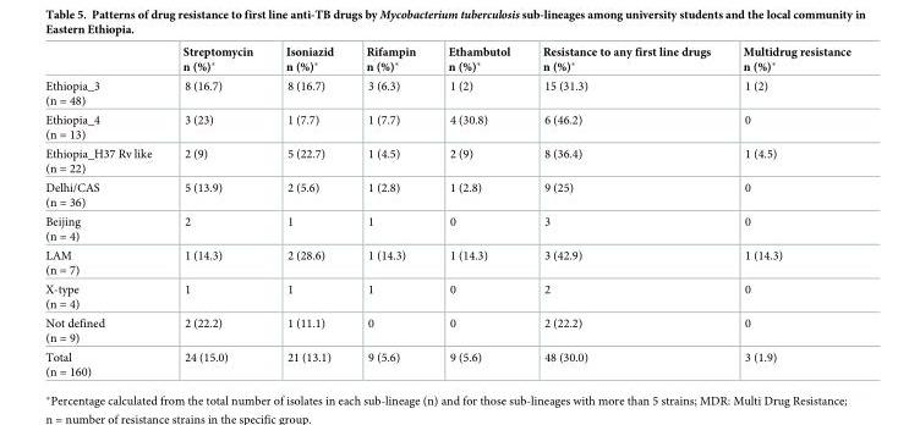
<table><thead><tr><td></td><td>Streptomycin n (%)*</td><td>Isoniazid n (%)*</td><td>Rifampin n (%)*</td><td>Ethambutol n (%)*</td><td>Resistance to any first line drugs n (%)*</td><td>Multidrug resistance n (%)*</td></tr></thead><tbody><tr><td>Ethiopia_3 (n = 48)</td><td>8 (16.7)</td><td>8 (16.7)</td><td>3 (6.3)</td><td>1 (2)</td><td>15 (31.3)</td><td>1 (2)</td></tr><tr><td>Ethiopia_4 (n = 13)</td><td>3 (23)</td><td>1 (7.7)</td><td>1 (7.7)</td><td>4 (30.8)</td><td>6 (46.2)</td><td>0</td></tr><tr><td>Ethiopia_H37 Rv like (n = 22)</td><td>2 (9)</td><td>5 (22.7)</td><td>1 (4.5)</td><td>2 (9)</td><td>8 (36.4)</td><td>1 (4.5)</td></tr><tr><td>Delhi/CAS (n = 36)</td><td>5 (13.9)</td><td>2 (5.6)</td><td>1 (2.8)</td><td>1 (2.8)</td><td>9 (25)</td><td>0</td></tr><tr><td>Beijing (n = 4)</td><td>2</td><td>1</td><td>1</td><td>0</td><td>3</td><td>0</td></tr><tr><td>LAM (n = 7)</td><td>1 (14.3)</td><td>2 (28.6)</td><td>1 (14.3)</td><td>1 (14.3)</td><td>3 (42.9)</td><td>1 (14.3)</td></tr><tr><td>X-type (n = 4)</td><td>1</td><td>1</td><td>1</td><td>0</td><td>2</td><td>0</td></tr><tr><td>Not defined (n = 9)</td><td>2 (22.2)</td><td>1 (11.1)</td><td>0</td><td>0</td><td>2 (22.2)</td><td>0</td></tr><tr><td>Total (n = 160)</td><td>24 (15.0)</td><td>21 (13.1)</td><td>9 (5.6)</td><td>9 (5.6)</td><td>48 (30.0)</td><td>3 (1.9)</td></tr></tbody></table>